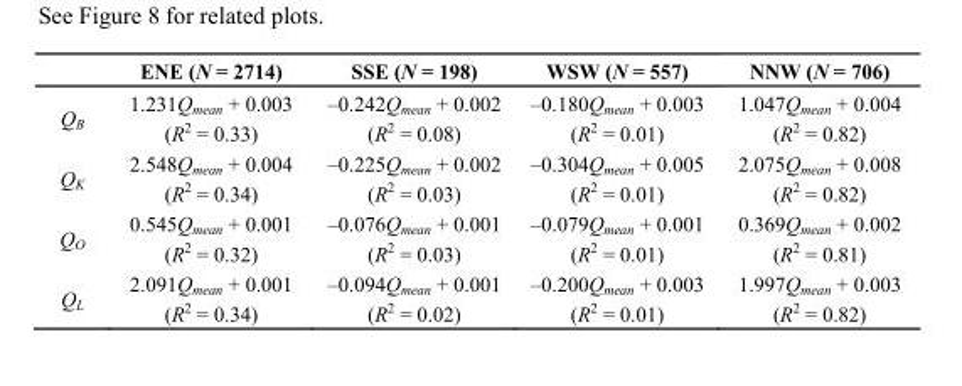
<table><thead><tr><td></td><td>ENE (N = 2714)</td><td>SSE (N = 198)</td><td>WSW (N = 557)</td><td>NNW (N = 706)</td></tr></thead><tbody><tr><td>Q<sub>B</sub></td><td>1.231Q<sub>mean</sub> + 0.003 (R<sup>2</sup> = 0.33)</td><td>–0.242Q<sub>mean</sub> + 0.002 (R<sup>2</sup> = 0.08)</td><td>–0.180Q<sub>mean</sub> + 0.003 (R<sup>2</sup> = 0.01)</td><td>1.047Q<sub>mean</sub> + 0.004 (R<sup>2</sup> = 0.82)</td></tr><tr><td>Q<sub>K</sub></td><td>2.548Q<sub>mean</sub> + 0.004 (R<sup>2</sup> = 0.34)</td><td>–0.225Q<sub>mean</sub> + 0.002 (R<sup>2</sup> = 0.03)</td><td>–0.304Q<sub>mean</sub> + 0.005 (R<sup>2</sup> = 0.01)</td><td>2.075Q<sub>mean</sub> + 0.008 (R<sup>2</sup> = 0.82)</td></tr><tr><td>Q<sub>O</sub></td><td>0.545Q<sub>mean</sub> + 0.001 (R<sup>2</sup> = 0.32)</td><td>–0.076Q<sub>mean</sub> + 0.001 (R<sup>2</sup> = 0.03)</td><td>–0.079Q<sub>mean</sub> + 0.001 (R<sup>2</sup> = 0.01)</td><td>0.369Q<sub>mean</sub> + 0.002 (R<sup>2</sup> = 0.81)</td></tr><tr><td>Q<sub>L</sub></td><td>2.091Q<sub>mean</sub> + 0.001 (R<sup>2</sup> = 0.34)</td><td>–0.094Q<sub>mean</sub> + 0.001 (R<sup>2</sup> = 0.02)</td><td>–0.200Q<sub>mean</sub> + 0.003 (R<sup>2</sup> = 0.01)</td><td>1.997Q<sub>mean</sub> + 0.003 (R<sup>2</sup> = 0.82)</td></tr></tbody></table>